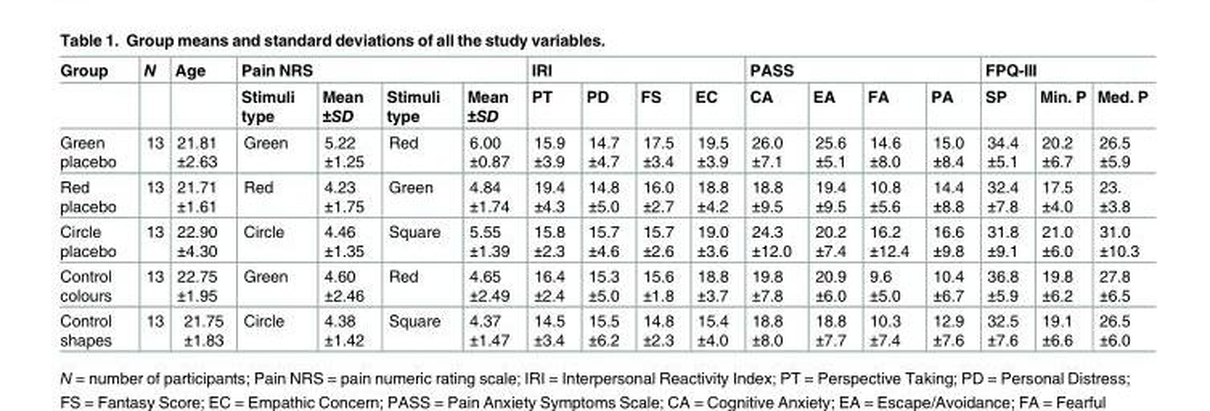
<table><thead><tr><td rowspan="2">Group</td><td rowspan="2">N</td><td rowspan="2">Age</td><td colspan="4">Pain NRS</td><td colspan="4">IRI</td><td colspan="4">PASS</td><td colspan="3">FPQ-III</td></tr><tr><td>Stimuli type</td><td>Mean ±SD</td><td>Stimuli type</td><td>Mean ±SD</td><td>PT</td><td>PD</td><td>FS</td><td>EC</td><td>CA</td><td>EA</td><td>FA</td><td>PA</td><td>SP</td><td>Min. P</td><td>Med. P</td></tr></thead><tbody><tr><td>Green placebo</td><td>13</td><td>21.81 ±2.63</td><td>Green</td><td>5.22 ±1.25</td><td>Red</td><td>6.00 ±0.87</td><td>15.9 ±3.9</td><td>14.7 ±4.7</td><td>17.5 ±3.4</td><td>19.5 ±3.9</td><td>26.0 ±7.1</td><td>25.6 ±5.1</td><td>14.6 ±8.0</td><td>15.0 ±8.4</td><td>34.4 ±5.1</td><td>20.2 ±6.7</td><td>26.5 ±5.9</td></tr><tr><td>Red placebo</td><td>13</td><td>21.71 ±1.61</td><td>Red</td><td>4.23 ±1.75</td><td>Green</td><td>4.84 ±1.74</td><td>19.4 ±4.3</td><td>14.8 ±5.0</td><td>16.0 ±2.7</td><td>18.8 ±4.2</td><td>18.8 ±9.5</td><td>19.4 ±9.5</td><td>10.8 ±5.6</td><td>14.4 ±8.8</td><td>32.4 ±7.8</td><td>17.5 ±4.0</td><td>23. ±3.8</td></tr><tr><td>Circle placebo</td><td>13</td><td>22.90 ±4.30</td><td>Circle</td><td>4.46 ±1.35</td><td>Square</td><td>5.55 ±1.39</td><td>15.8 ±2.3</td><td>15.7 ±4.6</td><td>15.7 ±2.6</td><td>19.0 ±3.6</td><td>24.3 ±12.0</td><td>20.2 ±7.4</td><td>16.2 ±12.4</td><td>16.6 ±9.8</td><td>31.8 ±9.1</td><td>21.0 ±6.0</td><td>31.0 ±10.3</td></tr><tr><td>Control colours</td><td>13</td><td>22.75 ±1.95</td><td>Green</td><td>4.60 ±2.46</td><td>Red</td><td>4.65 ±2.49</td><td>16.4 ±2.4</td><td>15.3 ±5.0</td><td>15.6 ±1.8</td><td>18.8 ±3.7</td><td>19.8 ±7.8</td><td>20.9 ±6.0</td><td>9.6 ±5.0</td><td>10.4 ±6.7</td><td>36.8 ±5.9</td><td>19.8 ±6.2</td><td>27.8 ±6.5</td></tr><tr><td>Control shapes</td><td>13</td><td>21.75 ±1.83</td><td>Circle</td><td>4.38 ±1.42</td><td>Square</td><td>4.37 ±1.47</td><td>14.5 ±3.4</td><td>15.5 ±6.2</td><td>14.8 ±2.3</td><td>15.4 ±4.0</td><td>18.8 ±8.0</td><td>18.8 ±7.7</td><td>10.3 ±7.4</td><td>12.9 ±7.6</td><td>32.5 ±7.6</td><td>19.1 ±6.6</td><td>26.5 ±6.0</td></tr></tbody></table>